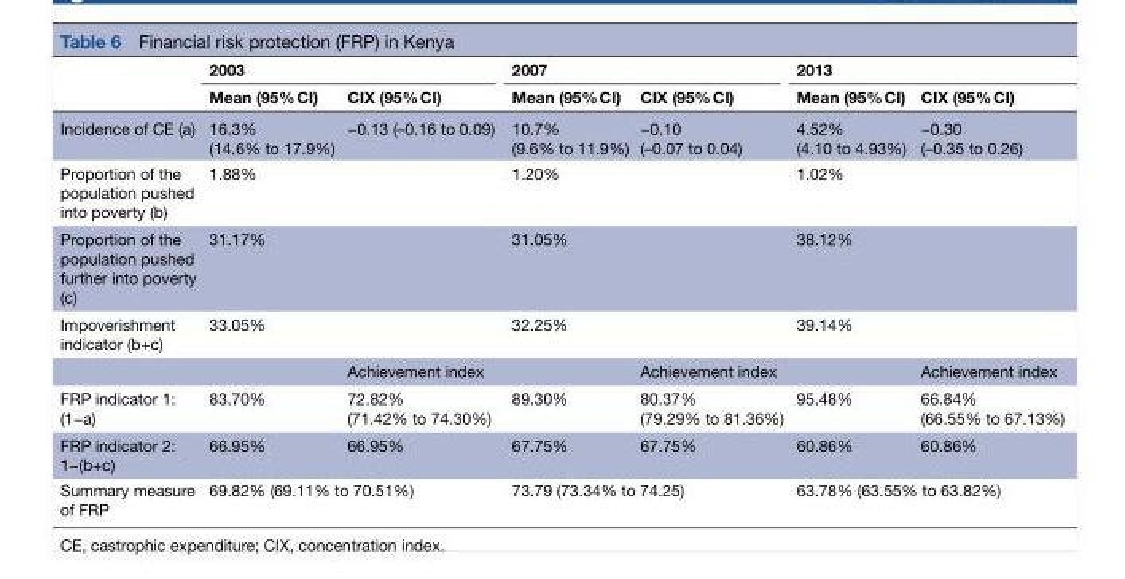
<table><thead><tr><td rowspan="2"></td><td colspan="2">2003</td><td colspan="2">2007</td><td colspan="2">2013</td></tr><tr><td>Mean (95% CI)</td><td>CIX (95% CI)</td><td>Mean (95% CI)</td><td>CIX (95% CI)</td><td>Mean (95% CI)</td><td>CIX (95% CI)</td></tr></thead><tbody><tr><td>Incidence of CE (a)</td><td>16.3% (14.6% to 17.9%)</td><td>−0.13 (–0.16 to 0.09)</td><td>10.7% (9.6% to 11.9%)</td><td>−0.10 (–0.07 to 0.04)</td><td>4.52% (4.10 to 4.93%)</td><td>−0.30 (–0.35 to 0.26)</td></tr><tr><td>Proportion of the population pushed into poverty (b)</td><td>1.88%</td><td></td><td>1.20%</td><td></td><td>1.02%</td><td></td></tr><tr><td>Proportion of the population pushed further into poverty (c)</td><td>31.17%</td><td></td><td>31.05%</td><td></td><td>38.12%</td><td></td></tr><tr><td rowspan="2">Impoverishment indicator (b+c)</td><td>33.05%</td><td></td><td>32.25%</td><td></td><td>39.14%</td><td></td></tr><tr><td></td><td>Achievement index</td><td></td><td>Achievement index</td><td></td><td>Achievement index</td></tr><tr><td>FRP indicator 1: (1−a)</td><td>83.70%</td><td>72.82% (71.42% to 74.30%)</td><td>89.30%</td><td>80.37% (79.29% to 81.36%)</td><td>95.48%</td><td>66.84% (66.55% to 67.13%)</td></tr><tr><td>FRP indicator 2: 1−(b+c)</td><td>66.95%</td><td>66.95%</td><td>67.75%</td><td>67.75%</td><td>60.86%</td><td>60.86%</td></tr><tr><td>Summary measure of FRP</td><td colspan="2">69.82% (69.11% to 70.51%)</td><td colspan="2">73.79 (73.34% to 74.25)</td><td colspan="2">63.78% (63.55% to 63.82%)</td></tr></tbody></table>